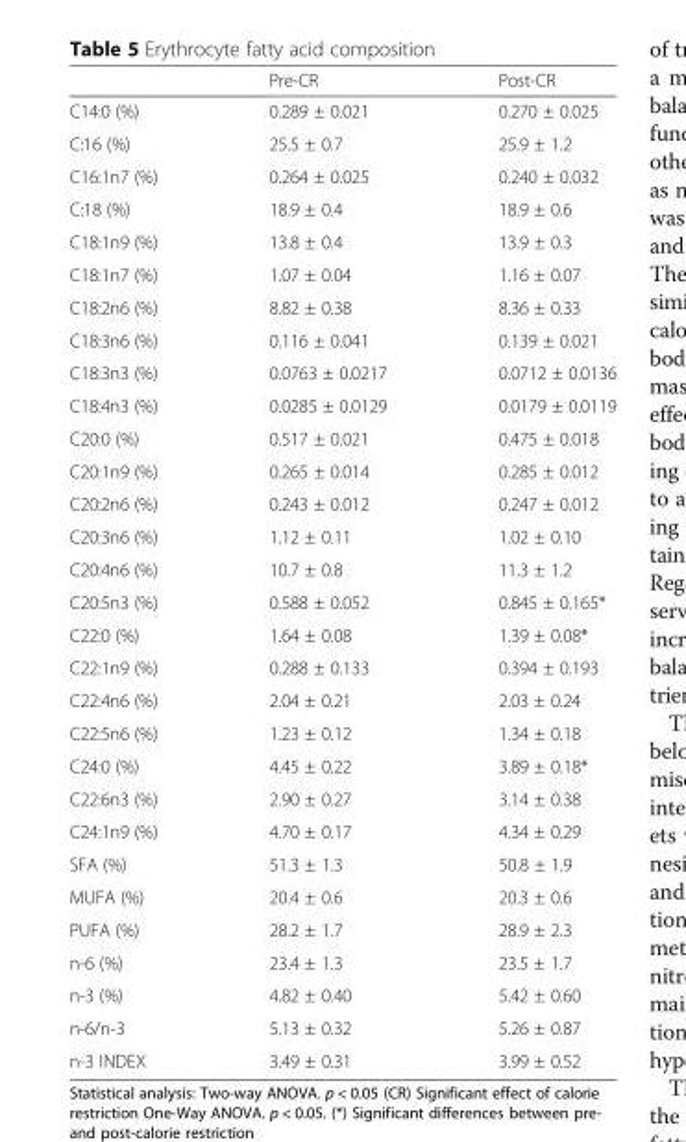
<table><thead><tr><td></td><td>Pre-CR</td><td>Post-CR</td></tr></thead><tbody><tr><td>C14:0 (%)</td><td>0.289 ± 0.021</td><td>0.270 ± 0.025</td></tr><tr><td>C:16 (%)</td><td>25.5 ± 0.7</td><td>25.9 ± 1.2</td></tr><tr><td>C16:1n7 (%)</td><td>0.264 ± 0.025</td><td>0.240 ± 0.032</td></tr><tr><td>C:18 (%)</td><td>18.9 ± 0.4</td><td>18.9 ± 0.6</td></tr><tr><td>C18:1n9 (%)</td><td>13.8 ± 0.4</td><td>13.9 ± 0.3</td></tr><tr><td>C18:1n7 (%)</td><td>1.07 ± 0.04</td><td>1.16 ± 0.07</td></tr><tr><td>C18:2n6 (%)</td><td>8.82 ± 0.38</td><td>8.36 ± 0.33</td></tr><tr><td>C18:3n6 (%)</td><td>0.116 ± 0.041</td><td>0.139 ± 0.021</td></tr><tr><td>C18:3n3 (%)</td><td>0.0763 ± 0.0217</td><td>0.0712 ± 0.0136</td></tr><tr><td>C18:4n3 (%)</td><td>0.0285 ± 0.0129</td><td>0.0179 ± 0.0119</td></tr><tr><td>C20:0 (%)</td><td>0.517 ± 0.021</td><td>0.475 ± 0.018</td></tr><tr><td>C20:1n9 (%)</td><td>0.265 ± 0.014</td><td>0.285 ± 0.012</td></tr><tr><td>C20:2n6 (%)</td><td>0.243 ± 0.012</td><td>0.247 ± 0.012</td></tr><tr><td>C20:3n6 (%)</td><td>1.12 ± 0.11</td><td>1.02 ± 0.10</td></tr><tr><td>C20:4n6 (%)</td><td>10.7 ± 0.8</td><td>11.3 ± 1.2</td></tr><tr><td>C20:5n3 (%)</td><td>0.588 ± 0.052</td><td>0.845 ± 0.165*</td></tr><tr><td>C22:0 (%)</td><td>1.64 ± 0.08</td><td>1.39 ± 0.08*</td></tr><tr><td>C22:1n9 (%)</td><td>0.288 ± 0.133</td><td>0.394 ± 0.193</td></tr><tr><td>C22:4n6 (%)</td><td>2.04 ± 0.21</td><td>2.03 ± 0.24</td></tr><tr><td>C22:5n6 (%)</td><td>1.23 ± 0.12</td><td>1.34 ± 0.18</td></tr><tr><td>C24:0 (%)</td><td>4.45 ± 0.22</td><td>3.89 ± 0.18*</td></tr><tr><td>C22:6n3 (%)</td><td>2.90 ± 0.27</td><td>3.14 ± 0.38</td></tr><tr><td>C24:1n9 (%)</td><td>4.70 ± 0.17</td><td>4.34 ± 0.29</td></tr><tr><td>SFA (%)</td><td>51.3 ± 1.3</td><td>50.8 ± 1.9</td></tr><tr><td>MUFA (%)</td><td>20.4 ± 0.6</td><td>20.3 ± 0.6</td></tr><tr><td>PUFA (%)</td><td>28.2 ± 1.7</td><td>28.9 ± 2.3</td></tr><tr><td>n-6 (%)</td><td>23.4 ± 1.3</td><td>23.5 ± 1.7</td></tr><tr><td>n-3 (%)</td><td>4.82 ± 0.40</td><td>5.42 ± 0.60</td></tr><tr><td>n-6/n-3</td><td>5.13 ± 0.32</td><td>5.26 ± 0.87</td></tr><tr><td>n-3 INDEX</td><td>3.49 ± 0.31</td><td>3.99 ± 0.52</td></tr></tbody></table>